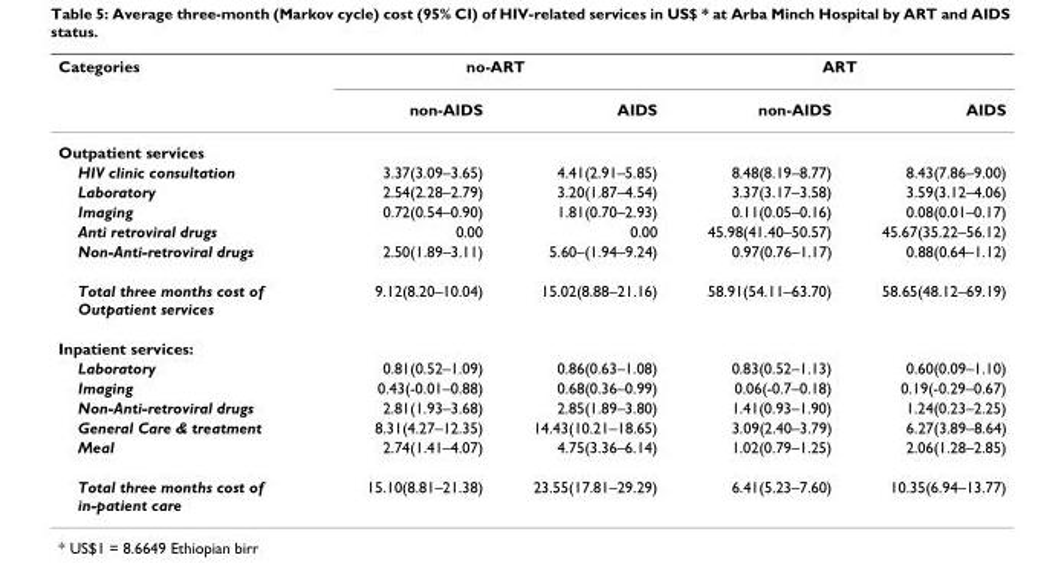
<table><thead><tr><td rowspan="2">Categories</td><td colspan="2">no-ART</td><td colspan="2">ART</td></tr><tr><td>non-AIDS</td><td>AIDS</td><td>non-AIDS</td><td>AIDS</td></tr></thead><tbody><tr><td colspan="5">Outpatient services</td></tr><tr><td>HIV clinic consultation</td><td>3.37(3.09–3.65)</td><td>4.41(2.91–5.85)</td><td>8.48(8.19–8.77)</td><td>8.43(7.86–9.00)</td></tr><tr><td>Laboratory</td><td>2.54(2.28–2.79)</td><td>3.20(1.87–4.54)</td><td>3.37(3.17–3.58)</td><td>3.59(3.12–4.06)</td></tr><tr><td>Imaging</td><td>0.72(0.54–0.90)</td><td>1.81(0.70–2.93)</td><td>0.11(0.05–0.16)</td><td>0.08(0.01–0.17)</td></tr><tr><td>Anti retroviral drugs</td><td>0.00</td><td>0.00</td><td>45.98(41.40–50.57)</td><td>45.67(35.22–56.12)</td></tr><tr><td>Non-Anti-retroviral drugs</td><td>2.50(1.89–3.11)</td><td>5.60–(1.94–9.24)</td><td>0.97(0.76–1.17)</td><td>0.88(0.64–1.12)</td></tr><tr><td>Total three months cost of Outpatient services</td><td>9.12(8.20–10.04)</td><td>15.02(8.88–21.16)</td><td>58.91(54.11–63.70)</td><td>58.65(48.12–69.19)</td></tr><tr><td colspan="5">Inpatient services:</td></tr><tr><td>Laboratory</td><td>0.81(0.52–1.09)</td><td>0.86(0.63–1.08)</td><td>0.83(0.52–1.13)</td><td>0.60(0.09–1.10)</td></tr><tr><td>Imaging</td><td>0.43(-0.01–0.88)</td><td>0.68(0.36–0.99)</td><td>0.06(-0.7–0.18)</td><td>0.19(-0.29–0.67)</td></tr><tr><td>Non-Anti-retroviral drugs</td><td>2.81(1.93–3.68)</td><td>2.85(1.89–3.80)</td><td>1.41(0.93–1.90)</td><td>1.24(0.23–2.25)</td></tr><tr><td>General Care &amp; treatment</td><td>8.31(4.27–12.35)</td><td>14.43(10.21–18.65)</td><td>3.09(2.40–3.79)</td><td>6.27(3.89–8.64)</td></tr><tr><td>Meal</td><td>2.74(1.41–4.07)</td><td>4.75(3.36–6.14)</td><td>1.02(0.79–1.25)</td><td>2.06(1.28–2.85)</td></tr><tr><td>Total three months cost of in-patient care</td><td>15.10(8.81–21.38)</td><td>23.55(17.81–29.29)</td><td>6.41(5.23–7.60)</td><td>10.35(6.94–13.77)</td></tr></tbody></table>